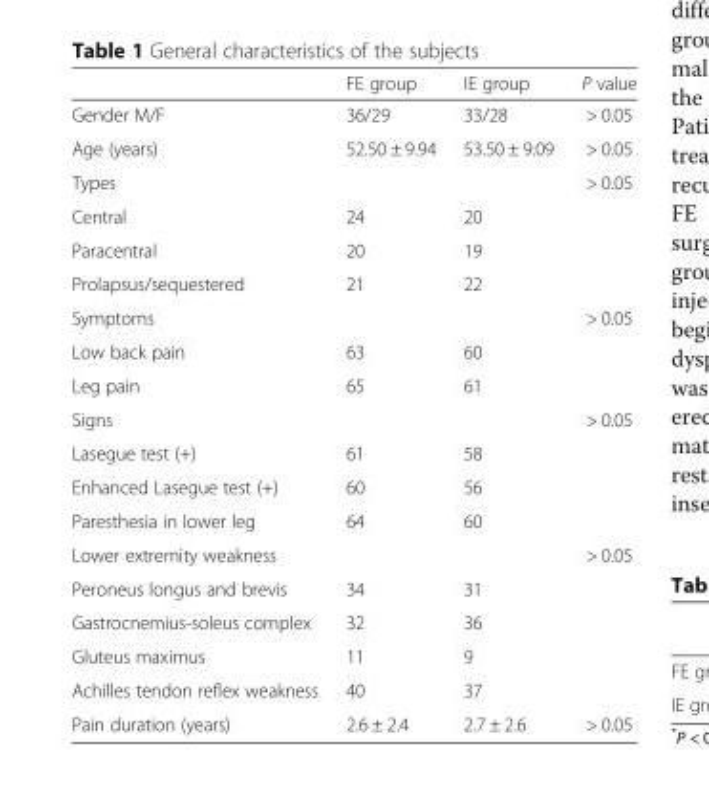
<table><thead><tr><td></td><td>FE group</td><td>IE group</td><td>P value</td></tr></thead><tbody><tr><td>Gender M/F</td><td>36/29</td><td>33/28</td><td>&gt; 0.05</td></tr><tr><td>Age (years)</td><td>52.50 ± 9.94</td><td>53.50 ± 9.09</td><td>&gt; 0.05</td></tr><tr><td>Types</td><td></td><td></td><td>&gt; 0.05</td></tr><tr><td>Central</td><td>24</td><td>20</td><td></td></tr><tr><td>Paracentral</td><td>20</td><td>19</td><td></td></tr><tr><td>Prolapsus/sequestered</td><td>21</td><td>22</td><td></td></tr><tr><td>Symptoms</td><td></td><td></td><td>&gt; 0.05</td></tr><tr><td>Low back pain</td><td>63</td><td>60</td><td></td></tr><tr><td>Leg pain</td><td>65</td><td>61</td><td></td></tr><tr><td>Signs</td><td></td><td></td><td>&gt; 0.05</td></tr><tr><td>Lasegue test (+)</td><td>61</td><td>58</td><td></td></tr><tr><td>Enhanced Lasegue test (+)</td><td>60</td><td>56</td><td></td></tr><tr><td>Paresthesia in lower leg</td><td>64</td><td>60</td><td></td></tr><tr><td>Lower extremity weakness</td><td></td><td></td><td>&gt; 0.05</td></tr><tr><td>Peroneus longus and brevis</td><td>34</td><td>31</td><td></td></tr><tr><td>Gastrocnemius-soleus complex</td><td>32</td><td>36</td><td></td></tr><tr><td>Gluteus maximus</td><td>11</td><td>9</td><td></td></tr><tr><td>Achilles tendon reflex weakness</td><td>40</td><td>37</td><td></td></tr><tr><td>Pain duration (years)</td><td>2.6 ± 2.4</td><td>2.7 ± 2.6</td><td>&gt; 0.05</td></tr></tbody></table>